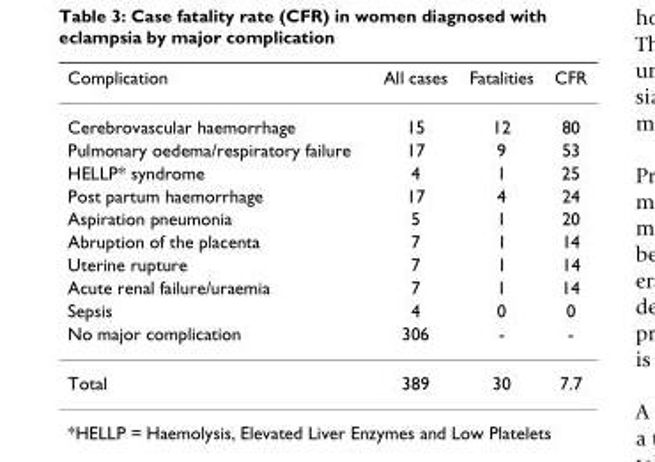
<table><thead><tr><td>Complication</td><td>All cases</td><td>Fatalities</td><td>CFR</td></tr></thead><tbody><tr><td>Cerebrovascular haemorrhage</td><td>15</td><td>12</td><td>80</td></tr><tr><td>Pulmonary oedema/respiratory failure</td><td>17</td><td>9</td><td>53</td></tr><tr><td>HELLP* syndrome</td><td>4</td><td>1</td><td>25</td></tr><tr><td>Post partum haemorrhage</td><td>17</td><td>4</td><td>24</td></tr><tr><td>Aspiration pneumonia</td><td>5</td><td>1</td><td>20</td></tr><tr><td>Abruption of the placenta</td><td>7</td><td>1</td><td>14</td></tr><tr><td>Uterine rupture</td><td>7</td><td>1</td><td>14</td></tr><tr><td>Acute renal failure/uraemia</td><td>7</td><td>1</td><td>14</td></tr><tr><td>Sepsis</td><td>4</td><td>0</td><td>0</td></tr><tr><td>No major complication</td><td>306</td><td>-</td><td>-</td></tr><tr><td>Total</td><td>389</td><td>30</td><td>7.7</td></tr></tbody></table>